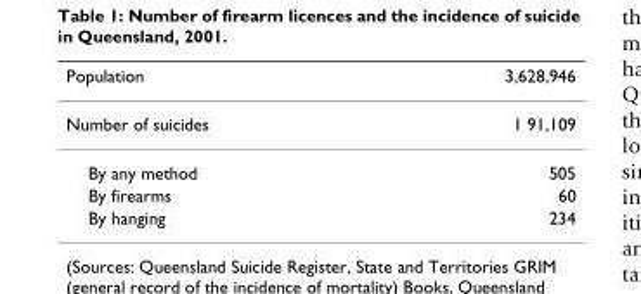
<table><thead><tr><td>Population</td><td>3,628,946</td></tr></thead><tbody><tr><td>Number of suicides</td><td>1 91,109</td></tr><tr><td>By any method</td><td>505</td></tr><tr><td>By firearms</td><td>60</td></tr><tr><td>By hanging</td><td>234</td></tr></tbody></table>